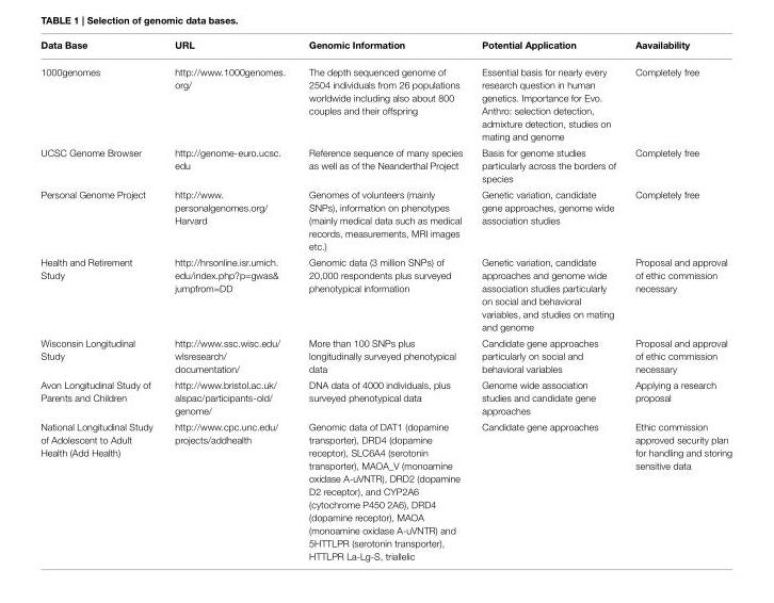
<table><thead><tr><td>Data Base</td><td>URL</td><td>Genomic Information</td><td>Potential Application</td><td>Aavailability</td></tr></thead><tbody><tr><td>1000genomes</td><td>http://www.1000genomes. org/</td><td>The depth sequenced genome of 2504 individuals from 26 populations worldwide including also about 800 couples and their offspring</td><td>Essential basis for nearly every research question in human genetics. Importance for Evo. Anthro: selection detection, admixture detection, studies on mating and genome</td><td>Completely free</td></tr><tr><td>UCSC Genome Browser</td><td>http://genome-euro.ucsc. edu</td><td>Reference sequence of many species as well as of the Neanderthal Project</td><td>Basis for genome studies particularly across the borders of species</td><td>Completely free</td></tr><tr><td>Personal Genome Project</td><td>http://www. personalgenomes.org/ Harvard</td><td>Genomes of volunteers (mainly SNPs), information on phenotypes (mainly medical data such as medical records, measurements, MRI images etc.)</td><td>Genetic variation, candidate gene approaches, genome wide association studies</td><td>Completely free</td></tr><tr><td>Health and Retirement Study</td><td>http://hrsonline.isr.umich. edu/index.php?p=gwas&amp; jumpfrom=DD</td><td>Genomic data (3 million SNPs) of 20,000 respondents plus surveyed phenotypical information</td><td>Genetic variation, candidate approaches and genome wide association studies particularly on social and behavioral variables, and studies on mating and genome</td><td>Proposal and approval of ethic commission necessary</td></tr><tr><td>Wisconsin Longitudinal Study</td><td>http://www.ssc.wisc.edu/ wlsresearch/ documentation/</td><td>More than 100 SNPs plus longitudinally surveyed phenotypical data</td><td>Candidate gene approaches particularly on social and behavioral variables</td><td>Proposal and approval of ethic commission necessary</td></tr><tr><td>Avon Longitudinal Study of Parents and Children</td><td>http://www.bristol.ac.uk/ alspac/participants-old/ genome/</td><td>DNA data of 4000 individuals, plus surveyed phenotypical data</td><td>Genome wide association studies and candidate gene approaches</td><td>Applying a research proposal</td></tr><tr><td>National Longitudinal Study of Adolescent to Adult Health (Add Health)</td><td>http://www.cpc.unc.edu/ projects/addhealth</td><td>Genomic data of DAT1 (dopamine transporter), DRD4 (dopamine receptor), SLC6A4 (serotonin transporter), MAOA_V (monoamine oxidase A-uVNTR), DRD2 (dopamine D2 receptor), and CYP2A6 (cytochrome P450 2A6), DRD4 (dopamine receptor), MAOA (monoamine oxidase A-uVNTR) and 5HTTLPR (serotonin transporter), HTTLPR La-Lg-S, triallelic</td><td>Candidate gene approaches</td><td>Ethic commission approved security plan for handling and storing sensitive data</td></tr></tbody></table>